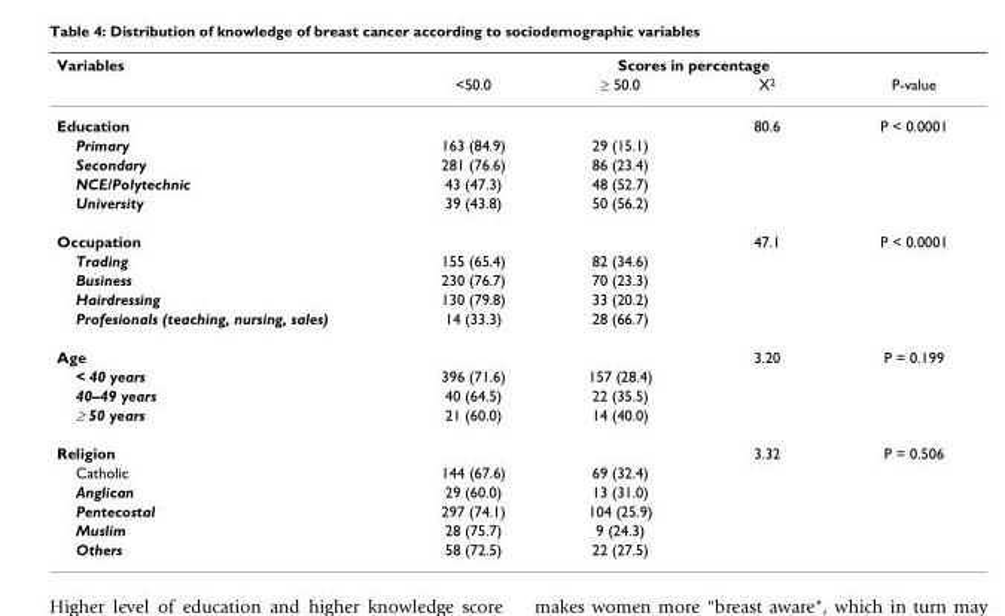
<table><thead><tr><td rowspan="2">Variables</td><td colspan="4">Scores in percentage</td></tr><tr><td>&lt;50.0</td><td>≥ 50.0</td><td>X<sup>2</sup></td><td>P-value</td></tr></thead><tbody><tr><td>Education</td><td></td><td></td><td>80.6</td><td>P &lt; 0.0001</td></tr><tr><td>Primary</td><td>163 (84.9)</td><td>29 (15.1)</td><td></td><td></td></tr><tr><td>Secondary</td><td>281 (76.6)</td><td>86 (23.4)</td><td></td><td></td></tr><tr><td>NCE/Polytechnic</td><td>43 (47.3)</td><td>48 (52.7)</td><td></td><td></td></tr><tr><td>University</td><td>39 (43.8)</td><td>50 (56.2)</td><td></td><td></td></tr><tr><td>Occupation</td><td></td><td></td><td>47.1</td><td>P &lt; 0.0001</td></tr><tr><td>Trading</td><td>155 (65.4)</td><td>82 (34.6)</td><td></td><td></td></tr><tr><td>Business</td><td>230 (76.7)</td><td>70 (23.3)</td><td></td><td></td></tr><tr><td>Hairdressing</td><td>130 (79.8)</td><td>33 (20.2)</td><td></td><td></td></tr><tr><td>Profesionals (teaching, nursing, sales)</td><td>14 (33.3)</td><td>28 (66.7)</td><td></td><td></td></tr><tr><td>Age</td><td></td><td></td><td>3.20</td><td>P = 0.199</td></tr><tr><td>&lt; 40 years</td><td>396 (71.6)</td><td>157 (28.4)</td><td></td><td></td></tr><tr><td>40–49 years</td><td>40 (64.5)</td><td>22 (35.5)</td><td></td><td></td></tr><tr><td>≥ 50 years</td><td>21 (60.0)</td><td>14 (40.0)</td><td></td><td></td></tr><tr><td>Religion</td><td></td><td></td><td>3.32</td><td>P = 0.506</td></tr><tr><td>Catholic</td><td>144 (67.6)</td><td>69 (32.4)</td><td></td><td></td></tr><tr><td>Anglican</td><td>29 (60.0)</td><td>13 (31.0)</td><td></td><td></td></tr><tr><td>Pentecostal</td><td>297 (74.1)</td><td>104 (25.9)</td><td></td><td></td></tr><tr><td>Muslim</td><td>28 (75.7)</td><td>9 (24.3)</td><td></td><td></td></tr><tr><td>Others</td><td>58 (72.5)</td><td>22 (27.5)</td><td></td><td></td></tr></tbody></table>